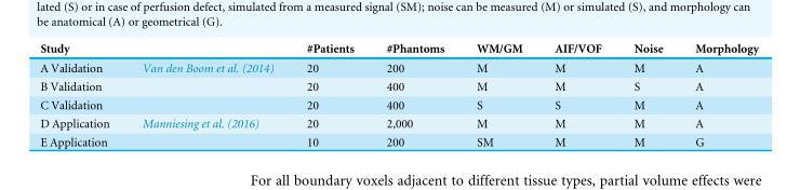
<table><thead><tr><td>Study</td><td></td><td>#Patients</td><td>#Phantoms</td><td>WM/GM</td><td>AIF/VOF</td><td>Noise</td><td>Morphology</td></tr></thead><tbody><tr><td>A Validation</td><td>Van den Boom et al. (2014)</td><td>20</td><td>200</td><td>M</td><td>M</td><td>M</td><td>A</td></tr><tr><td>B Validation</td><td></td><td>20</td><td>400</td><td>M</td><td>M</td><td>S</td><td>A</td></tr><tr><td>C Validation</td><td></td><td>20</td><td>400</td><td>S</td><td>S</td><td>M</td><td>A</td></tr><tr><td>D Application</td><td>Manniesing et al. (2016)</td><td>20</td><td>2,000</td><td>M</td><td>M</td><td>M</td><td>A</td></tr><tr><td>E Application</td><td></td><td>10</td><td>200</td><td>SM</td><td>M</td><td>M</td><td>G</td></tr></tbody></table>